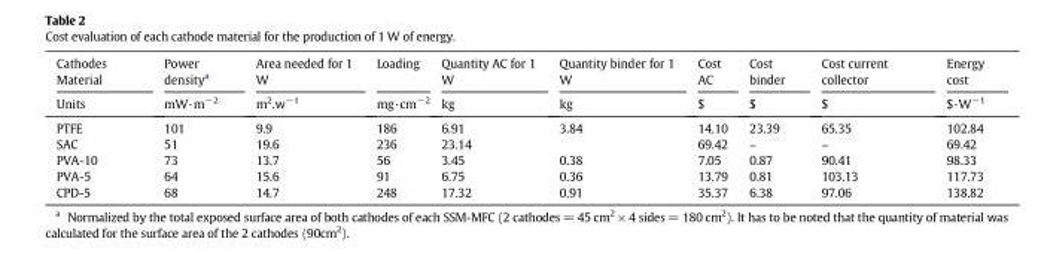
<table><thead><tr><td rowspan="2">Cathodes Material Units</td><td rowspan="2">Power density<sup>a</sup> mW·m<sup>−2</sup></td><td rowspan="2">Area needed for 1 W m<sup>2</sup>.w<sup>−1</sup></td><td rowspan="2">Loading mg·cm<sup>−2</sup></td><td rowspan="2">Quantity AC for 1 W kg</td><td rowspan="2">Quantity binder for 1 W kg</td><td rowspan="2">Cost AC $</td><td rowspan="2">Cost binder $</td><td rowspan="2">Cost current collector $</td><td rowspan="2">Energy cost $·W<sup>−1</sup></td></tr><tr></tr></thead><tbody><tr><td>PTFE</td><td>101</td><td>9.9</td><td>186</td><td>6.91</td><td>3.84</td><td>14.10</td><td>23.39</td><td>65.35</td><td>102.84</td></tr><tr><td>SAC</td><td>51</td><td>19.6</td><td>236</td><td colspan="2">23.14</td><td>69.42</td><td>–</td><td>–</td><td>69.42</td></tr><tr><td>PVA-10</td><td>73</td><td>13.7</td><td>56</td><td>3.45</td><td>0.38</td><td>7.05</td><td>0.87</td><td>90.41</td><td>98.33</td></tr><tr><td>PVA-5</td><td>64</td><td>15.6</td><td>91</td><td>6.75</td><td>0.36</td><td>13.79</td><td>0.81</td><td>103.13</td><td>117.73</td></tr><tr><td>CPD-5</td><td>68</td><td>14.7</td><td>248</td><td>17.32</td><td>0.91</td><td>35.37</td><td>6.38</td><td>97.06</td><td>138.82</td></tr></tbody></table>